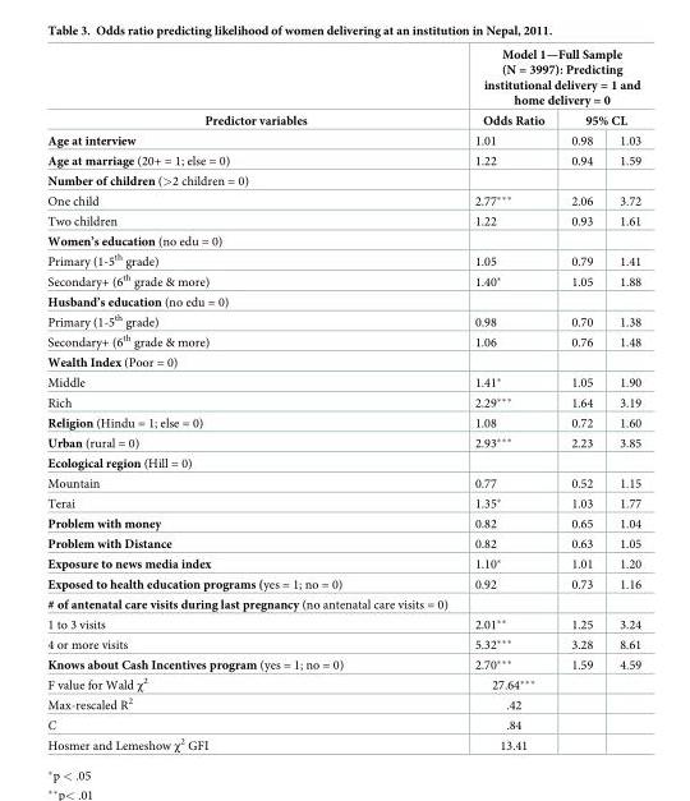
<table><thead><tr><td rowspan="3">Predictor variables Age at interview</td><td colspan="3">Model 1—Full Sample (N = 3997): Predicting institutional delivery = 1 and home delivery = 0</td></tr><tr><td rowspan="2">Odds Ratio 1.01</td><td colspan="2">95% CL</td></tr><tr><td>0.98</td><td>1.03</td></tr></thead><tbody><tr><td>Age at marriage (20+ = 1; else = 0)</td><td>1.22</td><td>0.94</td><td>1.59</td></tr><tr><td colspan="4">Number of children (&gt;2 children = 0)</td></tr><tr><td>One child</td><td>2.77***</td><td>2.06</td><td>3.72</td></tr><tr><td>Two children</td><td>1.22</td><td>0.93</td><td>1.61</td></tr><tr><td colspan="4">Women’s education (no edu = 0)</td></tr><tr><td>Primary (1-5<sup>th</sup> grade)</td><td>1.05</td><td>0.79</td><td>1.41</td></tr><tr><td>Secondary+ (6<sup>th</sup> grade &amp; more)</td><td>1.40*</td><td>1.05</td><td>1.88</td></tr><tr><td colspan="4">Husband’s education (no edu = 0)</td></tr><tr><td>Primary (1-5<sup>th</sup> grade)</td><td>0.98</td><td>0.70</td><td>1.38</td></tr><tr><td>Secondary+ (6<sup>th</sup> grade &amp; more)</td><td>1.06</td><td>0.76</td><td>1.48</td></tr><tr><td colspan="4">Wealth Index (Poor = 0)</td></tr><tr><td>Middle</td><td>1.41*</td><td>1.05</td><td>1.90</td></tr><tr><td>Rich</td><td>2.29***</td><td>1.64</td><td>3.19</td></tr><tr><td>Religion (Hindu = 1; else = 0)</td><td>1.08</td><td>0.72</td><td>1.60</td></tr><tr><td>Urban (rural = 0)</td><td>2.93***</td><td>2.23</td><td>3.85</td></tr><tr><td colspan="4">Ecological region (Hill = 0)</td></tr><tr><td>Mountain</td><td>0.77</td><td>0.52</td><td>1.15</td></tr><tr><td>Terai</td><td>1.35*</td><td>1.03</td><td>1.77</td></tr><tr><td>Problem with money</td><td>0.82</td><td>0.65</td><td>1.04</td></tr><tr><td>Problem with Distance</td><td>0.82</td><td>0.63</td><td>1.05</td></tr><tr><td>Exposure to news media index</td><td>1.10*</td><td>1.01</td><td>1.20</td></tr><tr><td>Exposed to health education programs (yes = 1; no = 0)</td><td>0.92</td><td>0.73</td><td>1.16</td></tr><tr><td colspan="4"># of antenatal care visits during last pregnancy (no antenatal care visits = 0)</td></tr><tr><td>1 to 3 visits</td><td>2.01**</td><td>1.25</td><td>3.24</td></tr><tr><td>4 or more visits</td><td>5.32***</td><td>3.28</td><td>8.61</td></tr><tr><td>Knows about Cash Incentives program (yes = 1; no = 0)</td><td>2.70***</td><td>1.59</td><td>4.59</td></tr><tr><td>F value for Wald χ<sup>2</sup></td><td>27.64***</td><td></td><td></td></tr><tr><td>Max-rescaled R<sup>2</sup></td><td>.42</td><td></td><td></td></tr><tr><td>C</td><td>.84</td><td></td><td></td></tr><tr><td>Hosmer and Lemeshow χ<sup>2</sup> GFI</td><td>13.41</td><td></td><td></td></tr></tbody></table>